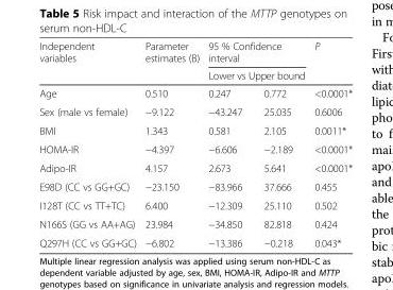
<table><thead><tr><td rowspan="3">Independent variables Age</td><td rowspan="3">Parameter estimates (B) 0.510</td><td rowspan="2" colspan="2">95 % Confidence interval Lower vs Upper bound</td><td rowspan="3">P &lt;0.0001*</td></tr><tr></tr><tr><td>0.247</td><td>0.772</td></tr></thead><tbody><tr><td>Sex (male vs female)</td><td>−9.122</td><td>−43.247</td><td>25.035</td><td>0.6006</td></tr><tr><td>BMI</td><td>1.343</td><td>0.581</td><td>2.105</td><td>0.0011*</td></tr><tr><td>HOMA-IR</td><td>−4.397</td><td>−6.606</td><td>−2.189</td><td>&lt;0.0001*</td></tr><tr><td>Adipo-IR</td><td>4.157</td><td>2.673</td><td>5.641</td><td>&lt;0.0001*</td></tr><tr><td>E98D (CC vs GG+GC)</td><td>−23.150</td><td>−83.966</td><td>37.666</td><td>0.455</td></tr><tr><td>I128T (CC vs TT+TC)</td><td>6.400</td><td>−12.309</td><td>25.110</td><td>0.502</td></tr><tr><td>N166S (GG vs AA+AG)</td><td>23.984</td><td>−34.850</td><td>82.818</td><td>0.424</td></tr><tr><td>Q297H (CC vs GG+GC)</td><td>−6.802</td><td>−13.386</td><td>−0.218</td><td>0.043*</td></tr></tbody></table>